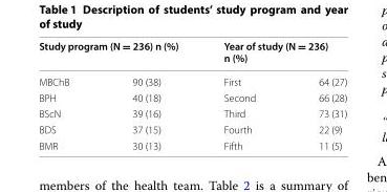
<table><thead><tr><td colspan="2">Study program (N = 236) n (%)</td><td colspan="2">Year of study (N = 236) n (%)</td></tr><tr><td>MBChB</td><td>90 (38)</td><td>First</td><td>64 (27)</td></tr></thead><tbody><tr><td>BPH</td><td>40 (18)</td><td>Second</td><td>66 (28)</td></tr><tr><td>BScN</td><td>39 (16)</td><td>Third</td><td>73 (31)</td></tr><tr><td>BDS</td><td>37 (15)</td><td>Fourth</td><td>22 (9)</td></tr><tr><td>BMR</td><td>30 (13)</td><td>Fifth</td><td>11 (5)</td></tr></tbody></table>